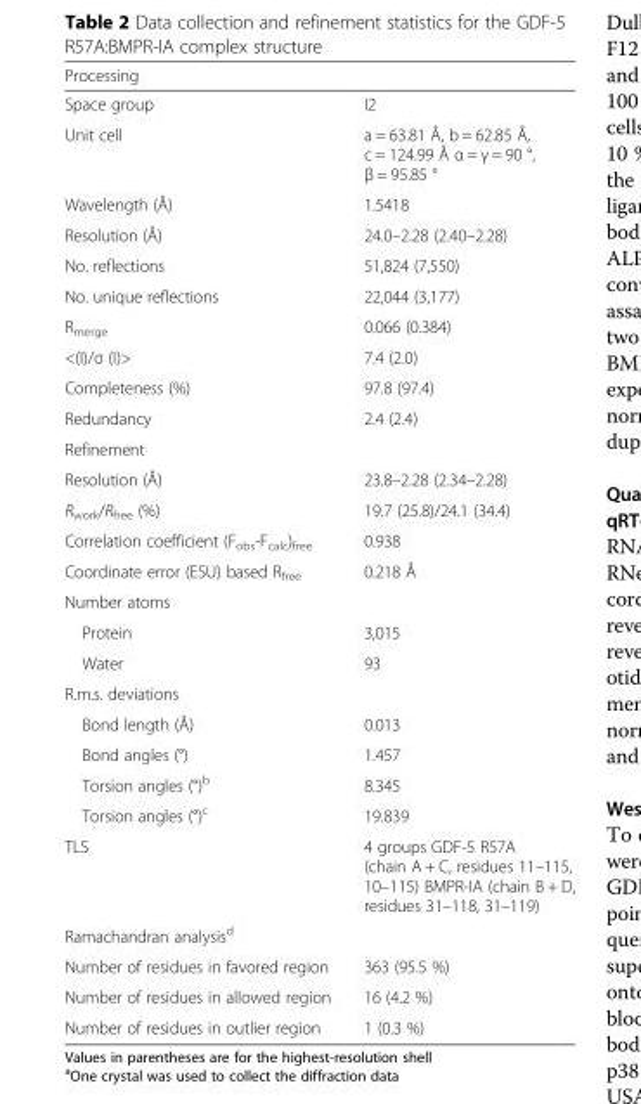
<table><thead><tr><td>Processing</td><td></td></tr></thead><tbody><tr><td>Space group</td><td>I2</td></tr><tr><td>Unit cell</td><td>a = 63.81 Å, b = 62.85 Å, c = 124.99 Å α = γ = 90 °, β = 95.85 °</td></tr><tr><td>Wavelength (Å)</td><td>1.5418</td></tr><tr><td>Resolution (Å)</td><td>24.0–2.28 (2.40–2.28)</td></tr><tr><td>No. reflections</td><td>51,824 (7,550)</td></tr><tr><td>No. unique reflections</td><td>22,044 (3,177)</td></tr><tr><td>R<sub>merge</sub></td><td>0.066 (0.384)</td></tr><tr><td>&lt;(I)/σ (I)&gt;</td><td>7.4 (2.0)</td></tr><tr><td>Completeness (%)</td><td>97.8 (97.4)</td></tr><tr><td>Redundancy</td><td>2.4 (2.4)</td></tr><tr><td colspan="2">Refinement</td></tr><tr><td>Resolution (Å)</td><td>23.8–2.28 (2.34–2.28)</td></tr><tr><td>R<sub>work</sub>/R<sub>free</sub> (%)</td><td>19.7 (25.8)/24.1 (34.4)</td></tr><tr><td>Correlation coefficient (F<sub>obs</sub>-F<sub>calc</sub>)<sub>free</sub></td><td>0.938</td></tr><tr><td>Coordinate error (ESU) based R<sub>free</sub></td><td>0.218 Å</td></tr><tr><td colspan="2">Number atoms</td></tr><tr><td>Protein</td><td>3,015</td></tr><tr><td>Water</td><td>93</td></tr><tr><td colspan="2">R.m.s. deviations</td></tr><tr><td>Bond length (Å)</td><td>0.013</td></tr><tr><td>Bond angles (°)</td><td>1.457</td></tr><tr><td>Torsion angles (°)<sup>b</sup></td><td>8.345</td></tr><tr><td>Torsion angles (°)<sup>c</sup></td><td>19.839</td></tr><tr><td>TLS</td><td>4 groups GDF-5 R57A (chain A + C, residues 11–115, 10–115) BMPR-IA (chain B + D, residues 31–118, 31–119)</td></tr><tr><td colspan="2">Ramachandran analysis<sup>d</sup></td></tr><tr><td>Number of residues in favored region</td><td>363 (95.5 %)</td></tr><tr><td>Number of residues in allowed region</td><td>16 (4.2 %)</td></tr><tr><td>Number of residues in outlier region</td><td>1 (0.3 %)</td></tr></tbody></table>